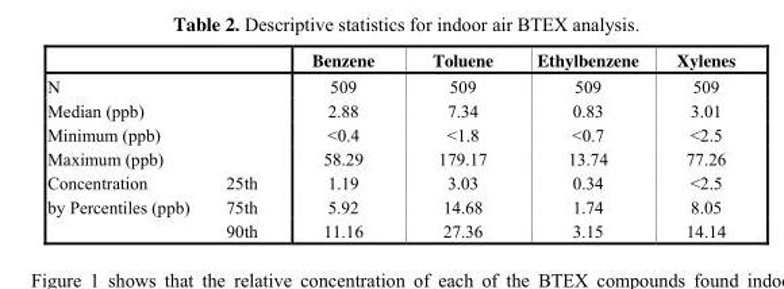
<table><thead><tr><td></td><td></td><td>Benzene</td><td>Toluene</td><td>Ethylbenzene</td><td>Xylenes</td></tr></thead><tbody><tr><td>N</td><td></td><td>509</td><td>509</td><td>509</td><td>509</td></tr><tr><td>Median (ppb)</td><td></td><td>2.88</td><td>7.34</td><td>0.83</td><td>3.01</td></tr><tr><td>Minimum (ppb)</td><td></td><td>&lt;0.4</td><td>&lt;1.8</td><td>&lt;0.7</td><td>&lt;2.5</td></tr><tr><td>Maximum (ppb)</td><td></td><td>58.29</td><td>179.17</td><td>13.74</td><td>77.26</td></tr><tr><td rowspan="3">Concentration by Percentiles (ppb)</td><td>25th</td><td>1.19</td><td>3.03</td><td>0.34</td><td>&lt;2.5</td></tr><tr><td>75th</td><td>5.92</td><td>14.68</td><td>1.74</td><td>8.05</td></tr><tr><td>90th</td><td>11.16</td><td>27.36</td><td>3.15</td><td>14.14</td></tr></tbody></table>